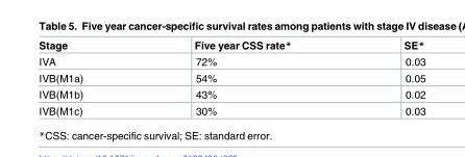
<table><thead><tr><td>Stage</td><td>Five year CSS rate*</td><td>SE*</td></tr></thead><tbody><tr><td>IVA</td><td>72%</td><td>0.03</td></tr><tr><td>IVB(M1a)</td><td>54%</td><td>0.05</td></tr><tr><td>IVB(M1b)</td><td>43%</td><td>0.02</td></tr><tr><td>IVB(M1c)</td><td>30%</td><td>0.03</td></tr></tbody></table>